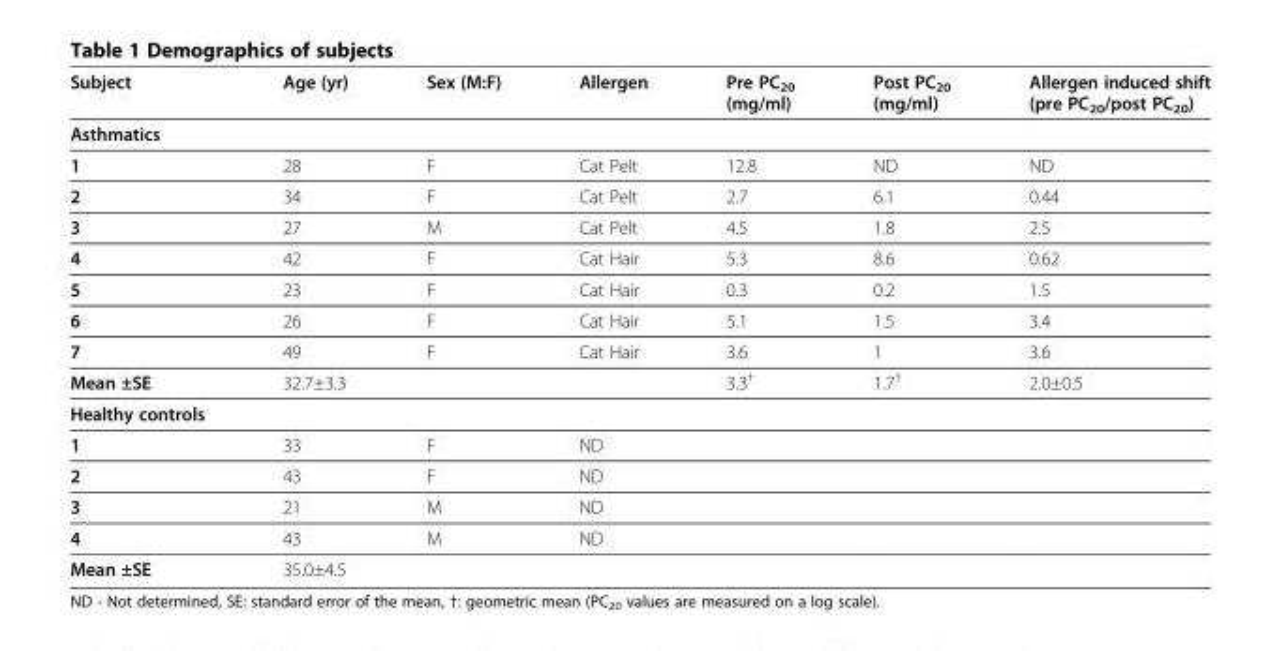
<table><thead><tr><td>Subject</td><td>Age (yr)</td><td>Sex (M:F)</td><td>Allergen</td><td>Pre PC<sub>20</sub> (mg/ml)</td><td>Post PC<sub>20</sub> (mg/ml)</td><td>Allergen induced shift (pre PC<sub>20</sub>/post PC<sub>20</sub>)</td></tr></thead><tbody><tr><td colspan="7">Asthmatics</td></tr><tr><td>1</td><td>28</td><td>F</td><td>Cat Pelt</td><td>12.8</td><td>ND</td><td>ND</td></tr><tr><td>2</td><td>34</td><td>F</td><td>Cat Pelt</td><td>2.7</td><td>6.1</td><td>0.44</td></tr><tr><td>3</td><td>27</td><td>M</td><td>Cat Pelt</td><td>4.5</td><td>1.8</td><td>2.5</td></tr><tr><td>4</td><td>42</td><td>F</td><td>Cat Hair</td><td>5.3</td><td>8.6</td><td>0.62</td></tr><tr><td>5</td><td>23</td><td>F</td><td>Cat Hair</td><td>0.3</td><td>0.2</td><td>1.5</td></tr><tr><td>6</td><td>26</td><td>F</td><td>Cat Hair</td><td>5.1</td><td>1.5</td><td>3.4</td></tr><tr><td>7</td><td>49</td><td>F</td><td>Cat Hair</td><td>3.6</td><td>1</td><td>3.6</td></tr><tr><td>Mean ±SE</td><td>32.7±3.3</td><td></td><td></td><td>3.3<sup>†</sup></td><td>1.7<sup>†</sup></td><td>2.0±0.5</td></tr><tr><td colspan="7">Healthy controls</td></tr><tr><td>1</td><td>33</td><td>F</td><td>ND</td><td></td><td></td><td></td></tr><tr><td>2</td><td>43</td><td>F</td><td>ND</td><td></td><td></td><td></td></tr><tr><td>3</td><td>21</td><td>M</td><td>ND</td><td></td><td></td><td></td></tr><tr><td>4</td><td>43</td><td>M</td><td>ND</td><td></td><td></td><td></td></tr><tr><td>Mean ±SE</td><td>35.0±4.5</td><td></td><td colspan="4"></td></tr></tbody></table>